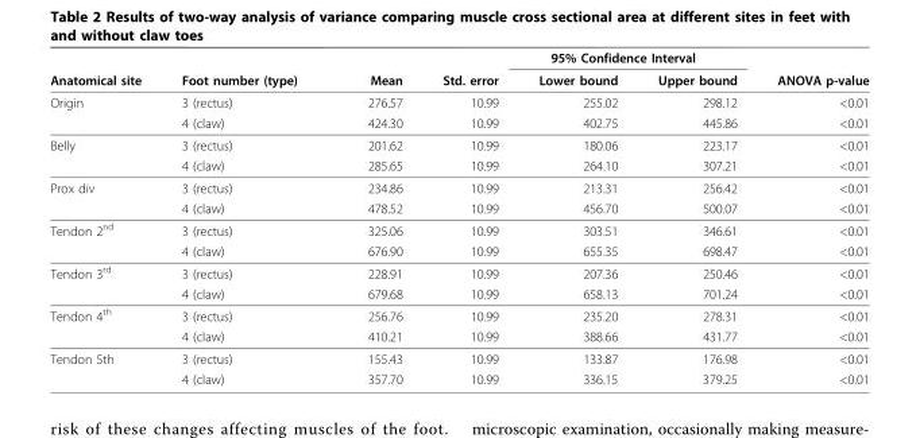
<table><thead><tr><td rowspan="2">Anatomical site</td><td rowspan="2">Foot number (type)</td><td rowspan="2">Mean</td><td rowspan="2">Std. error</td><td colspan="2">95% Confidence Interval</td><td rowspan="2">ANOVA p-value</td></tr><tr><td>Lower bound</td><td>Upper bound</td></tr></thead><tbody><tr><td rowspan="2">Origin</td><td>3 (rectus)</td><td>276.57</td><td>10.99</td><td>255.02</td><td>298.12</td><td>&lt;0.01</td></tr><tr><td>4 (claw)</td><td>424.30</td><td>10.99</td><td>402.75</td><td>445.86</td><td>&lt;0.01</td></tr><tr><td rowspan="2">Belly</td><td>3 (rectus)</td><td>201.62</td><td>10.99</td><td>180.06</td><td>223.17</td><td>&lt;0.01</td></tr><tr><td>4 (claw)</td><td>285.65</td><td>10.99</td><td>264.10</td><td>307.21</td><td>&lt;0.01</td></tr><tr><td rowspan="2">Prox div</td><td>3 (rectus)</td><td>234.86</td><td>10.99</td><td>213.31</td><td>256.42</td><td>&lt;0.01</td></tr><tr><td>4 (claw)</td><td>478.52</td><td>10.99</td><td>456.70</td><td>500.07</td><td>&lt;0.01</td></tr><tr><td rowspan="2">Tendon 2<sup>nd</sup></td><td>3 (rectus)</td><td>325.06</td><td>10.99</td><td>303.51</td><td>346.61</td><td>&lt;0.01</td></tr><tr><td>4 (claw)</td><td>676.90</td><td>10.99</td><td>655.35</td><td>698.47</td><td>&lt;0.01</td></tr><tr><td rowspan="2">Tendon 3<sup>rd</sup></td><td>3 (rectus)</td><td>228.91</td><td>10.99</td><td>207.36</td><td>250.46</td><td>&lt;0.01</td></tr><tr><td>4 (claw)</td><td>679.68</td><td>10.99</td><td>658.13</td><td>701.24</td><td>&lt;0.01</td></tr><tr><td rowspan="2">Tendon 4<sup>th</sup></td><td>3 (rectus)</td><td>256.76</td><td>10.99</td><td>235.20</td><td>278.31</td><td>&lt;0.01</td></tr><tr><td>4 (claw)</td><td>410.21</td><td>10.99</td><td>388.66</td><td>431.77</td><td>&lt;0.01</td></tr><tr><td rowspan="2">Tendon 5th</td><td>3 (rectus)</td><td>155.43</td><td>10.99</td><td>133.87</td><td>176.98</td><td>&lt;0.01</td></tr><tr><td>4 (claw)</td><td>357.70</td><td>10.99</td><td>336.15</td><td>379.25</td><td>&lt;0.01</td></tr></tbody></table>